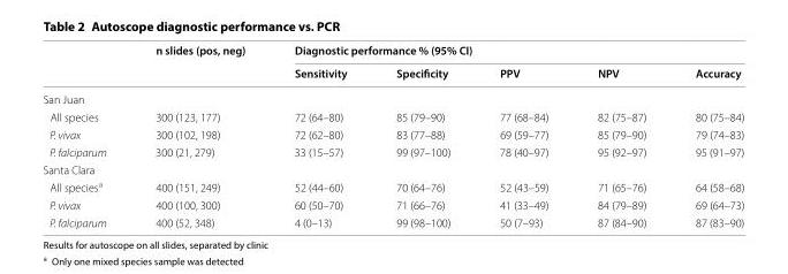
<table><thead><tr><td rowspan="2"></td><td rowspan="2">n slides (pos, neg)</td><td colspan="5">Diagnostic performance % (95% CI)</td></tr><tr><td>Sensitivity</td><td>Specificity</td><td>PPV</td><td>NPV</td><td>Accuracy</td></tr></thead><tbody><tr><td colspan="7">San Juan</td></tr><tr><td>All species</td><td>300 (123, 177)</td><td>72 (64–80)</td><td>85 (79–90)</td><td>77 (68–84)</td><td>82 (75–87)</td><td>80 (75–84)</td></tr><tr><td>P. vivax</td><td>300 (102, 198)</td><td>72 (62–80)</td><td>83 (77–88)</td><td>69 (59–77)</td><td>85 (79–90)</td><td>79 (74–83)</td></tr><tr><td>P. falciparum</td><td>300 (21, 279)</td><td>33 (15–57)</td><td>99 (97–100)</td><td>78 (40–97)</td><td>95 (92–97)</td><td>95 (91–97)</td></tr><tr><td colspan="7">Santa Clara</td></tr><tr><td>All species<sup>a</sup></td><td>400 (151, 249)</td><td>52 (44–60)</td><td>70 (64–76)</td><td>52 (43–59)</td><td>71 (65–76)</td><td>64 (58–68)</td></tr><tr><td>P. vivax</td><td>400 (100, 300)</td><td>60 (50–70)</td><td>71 (66–76)</td><td>41 (33–49)</td><td>84 (79–89)</td><td>69 (64–73)</td></tr><tr><td>P. falciparum</td><td>400 (52, 348)</td><td>4 (0–13)</td><td>99 (98–100)</td><td>50 (7–93)</td><td>87 (84–90)</td><td>87 (83–90)</td></tr></tbody></table>